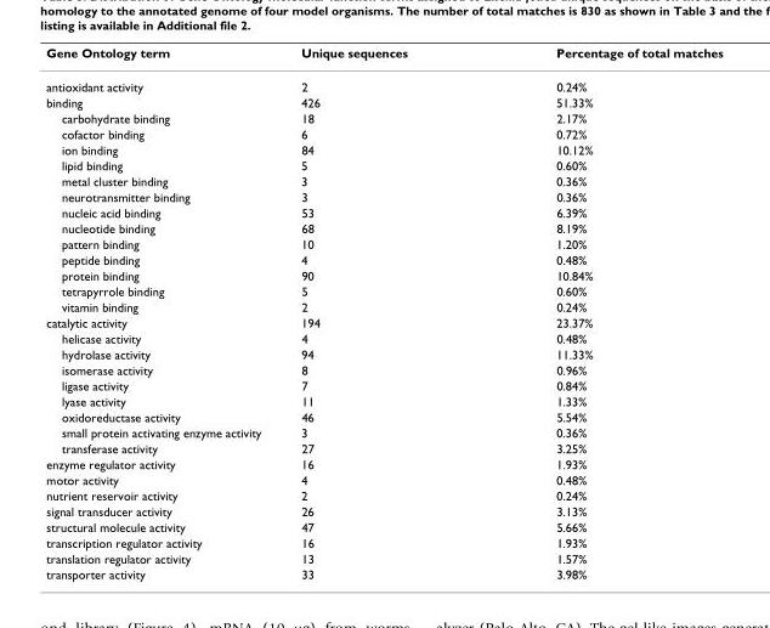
<table><thead><tr><td>Gene Ontology term</td><td>Unique sequences</td><td>Percentage of total matches</td></tr></thead><tbody><tr><td>antioxidant activity</td><td>2</td><td>0.24%</td></tr><tr><td>binding</td><td>426</td><td>51.33%</td></tr><tr><td>carbohydrate binding</td><td>18</td><td>2.17%</td></tr><tr><td>cofactor binding</td><td>6</td><td>0.72%</td></tr><tr><td>ion binding</td><td>84</td><td>10.12%</td></tr><tr><td>lipid binding</td><td>5</td><td>0.60%</td></tr><tr><td>metal cluster binding</td><td>3</td><td>0.36%</td></tr><tr><td>neurotransmitter binding</td><td>3</td><td>0.36%</td></tr><tr><td>nucleic acid binding</td><td>53</td><td>6.39%</td></tr><tr><td>nucleotide binding</td><td>68</td><td>8.19%</td></tr><tr><td>pattern binding</td><td>10</td><td>1.20%</td></tr><tr><td>peptide binding</td><td>4</td><td>0.48%</td></tr><tr><td>protein binding</td><td>90</td><td>10.84%</td></tr><tr><td>tetrapyrrole binding</td><td>5</td><td>0.60%</td></tr><tr><td>vitamin binding</td><td>2</td><td>0.24%</td></tr><tr><td>catalytic activity</td><td>194</td><td>23.37%</td></tr><tr><td>helicase activity</td><td>4</td><td>0.48%</td></tr><tr><td>hydrolase activity</td><td>94</td><td>11.33%</td></tr><tr><td>isomerase activity</td><td>8</td><td>0.96%</td></tr><tr><td>ligase activity</td><td>7</td><td>0.84%</td></tr><tr><td>lyase activity</td><td>11</td><td>1.33%</td></tr><tr><td>oxidoreductase activity</td><td>46</td><td>5.54%</td></tr><tr><td>small protein activating enzyme activity</td><td>3</td><td>0.36%</td></tr><tr><td>transferase activity</td><td>27</td><td>3.25%</td></tr><tr><td>enzyme regulator activity</td><td>16</td><td>1.93%</td></tr><tr><td>motor activity</td><td>4</td><td>0.48%</td></tr><tr><td>nutrient reservoir activity</td><td>2</td><td>0.24%</td></tr><tr><td>signal transducer activity</td><td>26</td><td>3.13%</td></tr><tr><td>structural molecule activity</td><td>47</td><td>5.66%</td></tr><tr><td>transcription regulator activity</td><td>16</td><td>1.93%</td></tr><tr><td>translation regulator activity</td><td>13</td><td>1.57%</td></tr><tr><td>transporter activity</td><td>33</td><td>3.98%</td></tr></tbody></table>